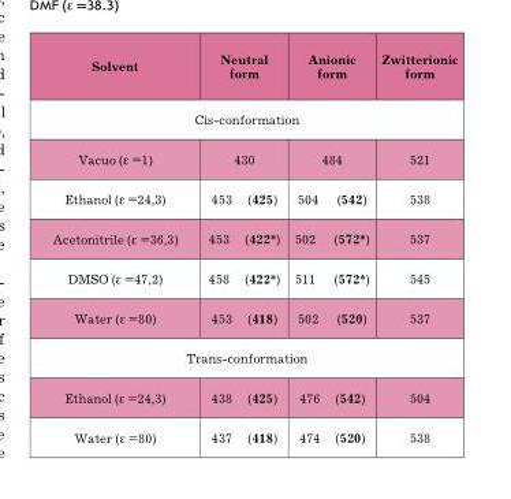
<table><thead><tr><td>Solvent</td><td>Neutral form</td><td>Anionic form</td><td>Zwitterionic form</td></tr></thead><tbody><tr><td colspan="4">cis-conformation</td></tr><tr><td>Vacuo (ε =1)</td><td>430</td><td>484</td><td>521</td></tr><tr><td>ethanol (ε =24,3)</td><td>453 (425)</td><td>504 (542)</td><td>538</td></tr><tr><td>Acetonitrile (ε =36,3)</td><td>453 (422*)</td><td>502 (572*)</td><td>537</td></tr><tr><td>DMSO (ε =47,2)</td><td>458 (422*)</td><td>511 (572*)</td><td>545</td></tr><tr><td>Water (ε =80)</td><td>453 (418)</td><td>502 (520)</td><td>537</td></tr><tr><td colspan="4">trans-conformation</td></tr><tr><td>ethanol (ε =24,3)</td><td>438 (425)</td><td>476 (542)</td><td>504</td></tr><tr><td>Water (ε =80)</td><td>437 (418)</td><td>474 (520)</td><td>538</td></tr></tbody></table>